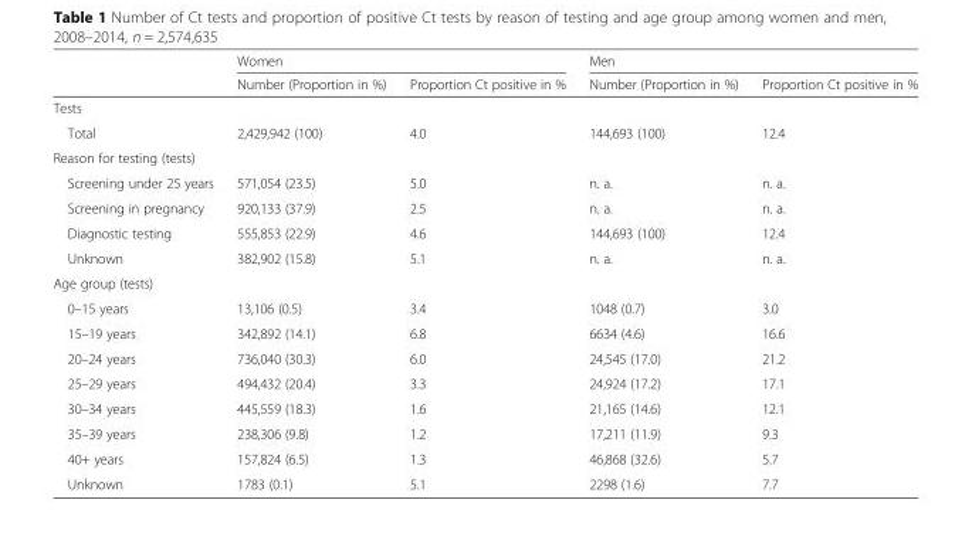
<table><thead><tr><td rowspan="2"></td><td colspan="2">Women</td><td colspan="2">Men</td></tr><tr><td>Number (Proportion in %)</td><td>Proportion Ct positive in %</td><td>Number (Proportion in %)</td><td>Proportion Ct positive in %</td></tr></thead><tbody><tr><td colspan="5">Tests</td></tr><tr><td>Total</td><td>2,429,942 (100)</td><td>4.0</td><td>144,693 (100)</td><td>12.4</td></tr><tr><td colspan="5">Reason for testing (tests)</td></tr><tr><td>Screening under 25 years</td><td>571,054 (23.5)</td><td>5.0</td><td>n. a.</td><td>n. a.</td></tr><tr><td>Screening in pregnancy</td><td>920,133 (37.9)</td><td>2.5</td><td>n. a.</td><td>n. a.</td></tr><tr><td>Diagnostic testing</td><td>555,853 (22.9)</td><td>4.6</td><td>144,693 (100)</td><td>12.4</td></tr><tr><td>Unknown</td><td>382,902 (15.8)</td><td>5.1</td><td>n. a.</td><td>n. a.</td></tr><tr><td colspan="5">Age group (tests)</td></tr><tr><td>0–15 years</td><td>13,106 (0.5)</td><td>3.4</td><td>1048 (0.7)</td><td>3.0</td></tr><tr><td>15–19 years</td><td>342,892 (14.1)</td><td>6.8</td><td>6634 (4.6)</td><td>16.6</td></tr><tr><td>20–24 years</td><td>736,040 (30.3)</td><td>6.0</td><td>24,545 (17.0)</td><td>21.2</td></tr><tr><td>25–29 years</td><td>494,432 (20.4)</td><td>3.3</td><td>24,924 (17.2)</td><td>17.1</td></tr><tr><td>30–34 years</td><td>445,559 (18.3)</td><td>1.6</td><td>21,165 (14.6)</td><td>12.1</td></tr><tr><td>35–39 years</td><td>238,306 (9.8)</td><td>1.2</td><td>17,211 (11.9)</td><td>9.3</td></tr><tr><td>40+ years</td><td>157,824 (6.5)</td><td>1.3</td><td>46,868 (32.6)</td><td>5.7</td></tr><tr><td>Unknown</td><td>1783 (0.1)</td><td>5.1</td><td>2298 (1.6)</td><td>7.7</td></tr></tbody></table>